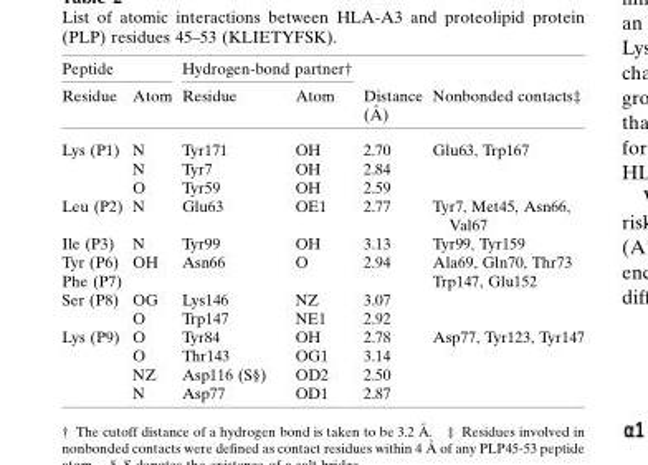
<table><thead><tr><td colspan="2">Peptide</td><td colspan="2">Hydrogen-bond partner†</td><td rowspan="2">Distance (A˚ )</td><td rowspan="2">Nonbonded contacts‡</td></tr><tr><td>Residue</td><td>Atom</td><td>Residue</td><td>Atom</td></tr></thead><tbody><tr><td rowspan="3">Lys (P1)</td><td>N</td><td>Tyr171</td><td>OH</td><td>2.70</td><td>Glu63, Trp167</td></tr><tr><td>N</td><td>Tyr7</td><td>OH</td><td>2.84</td><td></td></tr><tr><td>O</td><td>Tyr59</td><td>OH</td><td>2.59</td><td></td></tr><tr><td>Leu (P2)</td><td>N</td><td>Glu63</td><td>OE1</td><td>2.77</td><td>Tyr7, Met45, Asn66, Val67</td></tr><tr><td>Ile (P3)</td><td>N</td><td>Tyr99</td><td>OH</td><td>3.13</td><td>Tyr99, Tyr159</td></tr><tr><td>Tyr (P6)</td><td>OH</td><td>Asn66</td><td>O</td><td>2.94</td><td>Ala69, Gln70, Thr73</td></tr><tr><td>Phe (P7)</td><td></td><td></td><td></td><td></td><td>Trp147, Glu152</td></tr><tr><td rowspan="2">Ser (P8)</td><td>OG</td><td>Lys146</td><td>NZ</td><td>3.07</td><td></td></tr><tr><td>O</td><td>Trp147</td><td>NE1</td><td>2.92</td><td></td></tr><tr><td rowspan="4">Lys (P9)</td><td>O</td><td>Tyr84</td><td>OH</td><td>2.78</td><td>Asp77, Tyr123, Tyr147</td></tr><tr><td>O</td><td>Thr143</td><td>OG1</td><td>3.14</td><td></td></tr><tr><td>NZ</td><td>Asp116 (S§)</td><td>OD2</td><td>2.50</td><td></td></tr><tr><td>N</td><td>Asp77</td><td>OD1</td><td>2.87</td><td></td></tr></tbody></table>